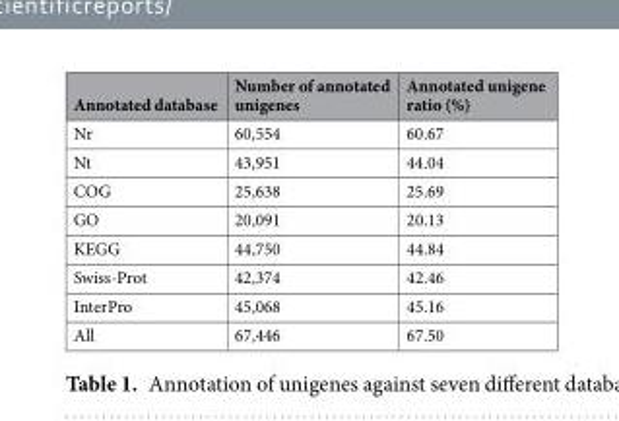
<table><thead><tr><td>Annotated database</td><td>Number of annotated unigenes</td><td>Annotated unigene ratio (%)</td></tr></thead><tbody><tr><td>Nr</td><td>60,554</td><td>60.67</td></tr><tr><td>Nt</td><td>43,951</td><td>44.04</td></tr><tr><td>COG</td><td>25,638</td><td>25.69</td></tr><tr><td>GO</td><td>20,091</td><td>20.13</td></tr><tr><td>KEGG</td><td>44,750</td><td>44.84</td></tr><tr><td>Swiss-Prot</td><td>42,374</td><td>42.46</td></tr><tr><td>InterPro</td><td>45,068</td><td>45.16</td></tr><tr><td>All</td><td>67,446</td><td>67.50</td></tr></tbody></table>